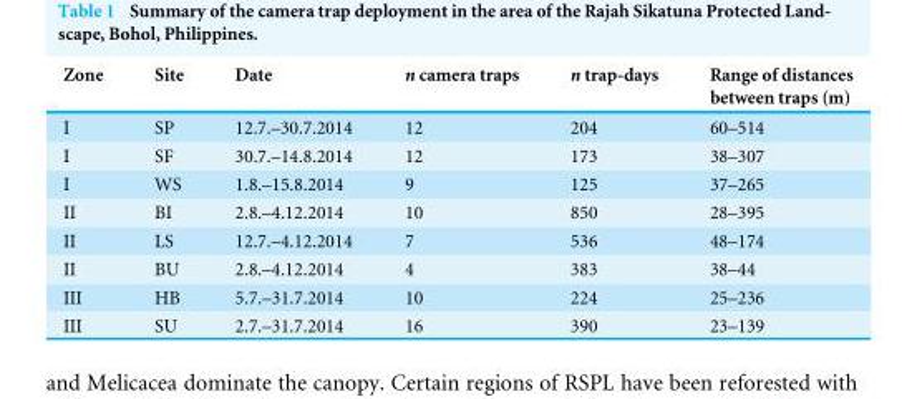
<table><thead><tr><td>Zone</td><td>Site</td><td>Date</td><td>n camera traps</td><td>n trap-days</td><td>Range of distances between traps (m)</td></tr></thead><tbody><tr><td>I</td><td>SP</td><td>12.7.–30.7.2014</td><td>12</td><td>204</td><td>60–514</td></tr><tr><td>I</td><td>SF</td><td>30.7.–14.8.2014</td><td>12</td><td>173</td><td>38–307</td></tr><tr><td>I</td><td>WS</td><td>1.8.–15.8.2014</td><td>9</td><td>125</td><td>37–265</td></tr><tr><td>II</td><td>BI</td><td>2.8.–4.12.2014</td><td>10</td><td>850</td><td>28–395</td></tr><tr><td>II</td><td>LS</td><td>12.7.–4.12.2014</td><td>7</td><td>536</td><td>48–174</td></tr><tr><td>II</td><td>BU</td><td>2.8.–4.12.2014</td><td>4</td><td>383</td><td>38–44</td></tr><tr><td>III</td><td>HB</td><td>5.7.–31.7.2014</td><td>10</td><td>224</td><td>25–236</td></tr><tr><td>III</td><td>SU</td><td>2.7.–31.7.2014</td><td>16</td><td>390</td><td>23–139</td></tr></tbody></table>